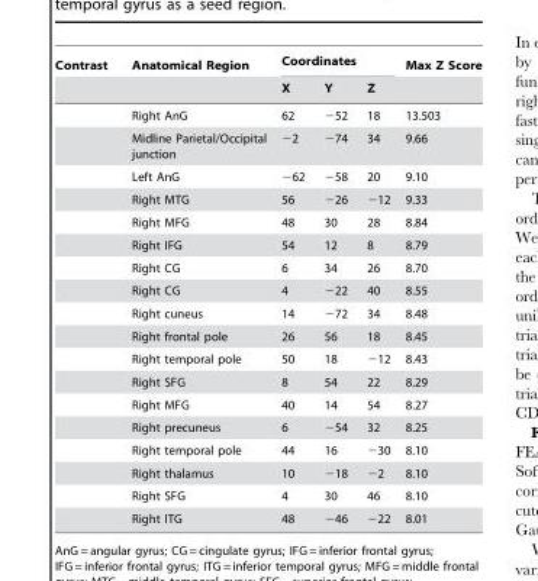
<table><thead><tr><td rowspan="2">Contrast</td><td rowspan="2">Anatomical Region</td><td colspan="3">Coordinates</td><td rowspan="2">Max Z Score</td></tr><tr><td>X</td><td>Y</td><td>Z</td></tr></thead><tbody><tr><td></td><td>Right AnG</td><td>62</td><td>−52</td><td>18</td><td>13.503</td></tr><tr><td></td><td>Midline Parietal/Occipital junction</td><td>−2</td><td>−74</td><td>34</td><td>9.66</td></tr><tr><td></td><td>Left AnG</td><td>−62</td><td>−58</td><td>20</td><td>9.10</td></tr><tr><td></td><td>Right MTG</td><td>56</td><td>−26</td><td>−12</td><td>9.33</td></tr><tr><td></td><td>Right MFG</td><td>48</td><td>30</td><td>28</td><td>8.84</td></tr><tr><td></td><td>Right IFG</td><td>54</td><td>12</td><td>8</td><td>8.79</td></tr><tr><td></td><td>Right CG</td><td>6</td><td>34</td><td>26</td><td>8.70</td></tr><tr><td></td><td>Right CG</td><td>4</td><td>−22</td><td>40</td><td>8.55</td></tr><tr><td></td><td>Right cuneus</td><td>14</td><td>−72</td><td>34</td><td>8.48</td></tr><tr><td></td><td>Right frontal pole</td><td>26</td><td>56</td><td>18</td><td>8.45</td></tr><tr><td></td><td>Right temporal pole</td><td>50</td><td>18</td><td>−12</td><td>8.43</td></tr><tr><td></td><td>Right SFG</td><td>8</td><td>54</td><td>22</td><td>8.29</td></tr><tr><td></td><td>Right MFG</td><td>40</td><td>14</td><td>54</td><td>8.27</td></tr><tr><td></td><td>Right precuneus</td><td>6</td><td>−54</td><td>32</td><td>8.25</td></tr><tr><td></td><td>Right temporal pole</td><td>44</td><td>16</td><td>−30</td><td>8.10</td></tr><tr><td></td><td>Right thalamus</td><td>10</td><td>−18</td><td>−2</td><td>8.10</td></tr><tr><td></td><td>Right SFG</td><td>4</td><td>30</td><td>46</td><td>8.10</td></tr><tr><td></td><td>Right ITG</td><td>48</td><td>−46</td><td>−22</td><td>8.01</td></tr></tbody></table>